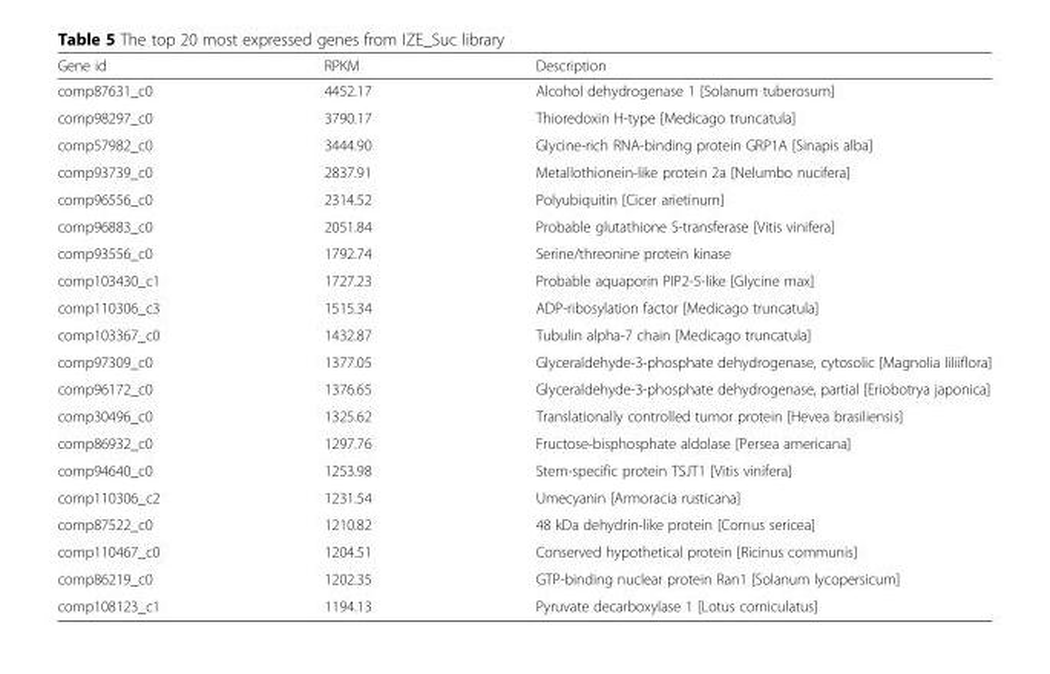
<table><thead><tr><td>Gene id</td><td>RPKM</td><td>Description</td></tr></thead><tbody><tr><td>comp87631_c0</td><td>4452.17</td><td>Alcohol dehydrogenase 1 [Solanum tuberosum]</td></tr><tr><td>comp98297_c0</td><td>3790.17</td><td>Thioredoxin H-type [Medicago truncatula]</td></tr><tr><td>comp57982_c0</td><td>3444.90</td><td>Glycine-rich RNA-binding protein GRP1A [Sinapis alba]</td></tr><tr><td>comp93739_c0</td><td>2837.91</td><td>Metallothionein-like protein 2a [Nelumbo nucifera]</td></tr><tr><td>comp96556_c0</td><td>2314.52</td><td>Polyubiquitin [Cicer arietinum]</td></tr><tr><td>comp96883_c0</td><td>2051.84</td><td>Probable glutathione S-transferase [Vitis vinifera]</td></tr><tr><td>comp93556_c0</td><td>1792.74</td><td>Serine/threonine protein kinase</td></tr><tr><td>comp103430_c1</td><td>1727.23</td><td>Probable aquaporin PIP2-5-like [Glycine max]</td></tr><tr><td>comp110306_c3</td><td>1515.34</td><td>ADP-ribosylation factor [Medicago truncatula]</td></tr><tr><td>comp103367_c0</td><td>1432.87</td><td>Tubulin alpha-7 chain [Medicago truncatula]</td></tr><tr><td>comp97309_c0</td><td>1377.05</td><td>Glyceraldehyde-3-phosphate dehydrogenase, cytosolic [Magnolia liliiflora]</td></tr><tr><td>comp96172_c0</td><td>1376.65</td><td>Glyceraldehyde-3-phosphate dehydrogenase, partial [Eriobotrya japonica]</td></tr><tr><td>comp30496_c0</td><td>1325.62</td><td>Translationally controlled tumor protein [Hevea brasiliensis]</td></tr><tr><td>comp86932_c0</td><td>1297.76</td><td>Fructose-bisphosphate aldolase [Persea americana]</td></tr><tr><td>comp94640_c0</td><td>1253.98</td><td>Stem-specific protein TSJT1 [Vitis vinifera]</td></tr><tr><td>comp110306_c2</td><td>1231.54</td><td>Umecyanin [Armoracia rusticana]</td></tr><tr><td>comp87522_c0</td><td>1210.82</td><td>48 kDa dehydrin-like protein [Cornus sericea]</td></tr><tr><td>comp110467_c0</td><td>1204.51</td><td>Conserved hypothetical protein [Ricinus communis]</td></tr><tr><td>comp86219_c0</td><td>1202.35</td><td>GTP-binding nuclear protein Ran1 [Solanum lycopersicum]</td></tr><tr><td>comp108123_c1</td><td>1194.13</td><td>Pyruvate decarboxylase 1 [Lotus corniculatus]</td></tr></tbody></table>